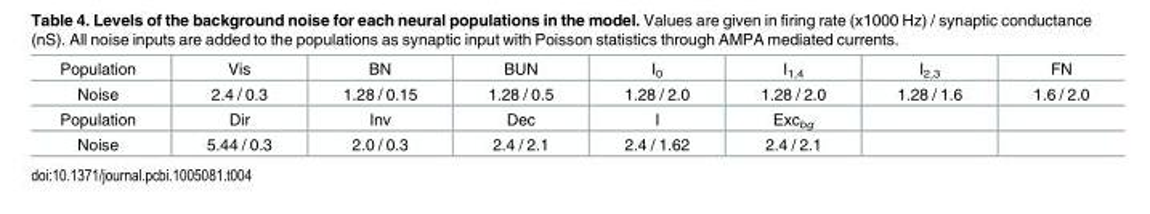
<table><tbody><tr><td>Population</td><td>Vis</td><td>BN</td><td>BUN</td><td>I<sub>0</sub></td><td>I<sub>1,4</sub></td><td>I<sub>2,3</sub></td><td>FN</td></tr><tr><td>Noise</td><td>2.4 / 0.3</td><td>1.28 / 0.15</td><td>1.28 / 0.5</td><td>1.28 / 2.0</td><td>1.28 / 2.0</td><td>1.28 / 1.6</td><td>1.6 / 2.0</td></tr><tr><td>Population</td><td>Dir</td><td>Inv</td><td>Dec</td><td>I</td><td>Exc<sub>bg</sub></td><td></td><td></td></tr><tr><td>Noise</td><td>5.44 / 0.3</td><td>2.0 / 0.3</td><td>2.4 / 2.1</td><td>2.4 / 1.62</td><td>2.4 / 2.1</td><td></td><td></td></tr></tbody></table>